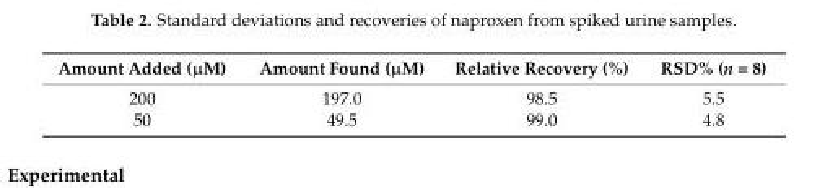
<table><thead><tr><td>Amount Added (µM)</td><td>Amount Found (µM)</td><td>Relative Recovery (%)</td><td>RSD% (n = 8)</td></tr></thead><tbody><tr><td>200</td><td>197.0</td><td>98.5</td><td>5.5</td></tr><tr><td>50</td><td>49.5</td><td>99.0</td><td>4.8</td></tr></tbody></table>